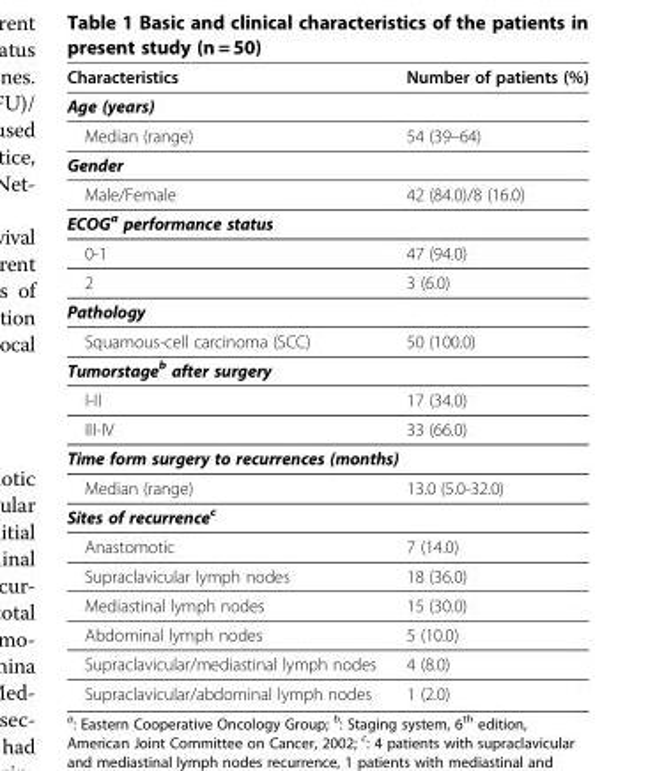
<table><thead><tr><td>Characteristics</td><td>Number of patients (%)</td></tr></thead><tbody><tr><td colspan="2">Age (years)</td></tr><tr><td>Median (range)</td><td>54 (39–64)</td></tr><tr><td colspan="2">Gender</td></tr><tr><td>Male/Female</td><td>42 (84.0)/8 (16.0)</td></tr><tr><td colspan="2">ECOG<sup>a</sup> performance status</td></tr><tr><td>0-1</td><td>47 (94.0)</td></tr><tr><td>2</td><td>3 (6.0)</td></tr><tr><td colspan="2">Pathology</td></tr><tr><td>Squamous-cell carcinoma (SCC)</td><td>50 (100.0)</td></tr><tr><td colspan="2">Tumorstage<sup>b</sup> after surgery</td></tr><tr><td>I-II</td><td>17 (34.0)</td></tr><tr><td>III-IV</td><td>33 (66.0)</td></tr><tr><td colspan="2">Time form surgery to recurrences (months)</td></tr><tr><td>Median (range)</td><td>13.0 (5.0-32.0)</td></tr><tr><td colspan="2">Sites of recurrence<sup>c</sup></td></tr><tr><td>Anastomotic</td><td>7 (14.0)</td></tr><tr><td>Supraclavicular lymph nodes</td><td>18 (36.0)</td></tr><tr><td>Mediastinal lymph nodes</td><td>15 (30.0)</td></tr><tr><td>Abdominal lymph nodes</td><td>5 (10.0)</td></tr><tr><td>Supraclavicular/mediastinal lymph nodes</td><td>4 (8.0)</td></tr><tr><td>Supraclavicular/abdominal lymph nodes</td><td>1 (2.0)</td></tr></tbody></table>